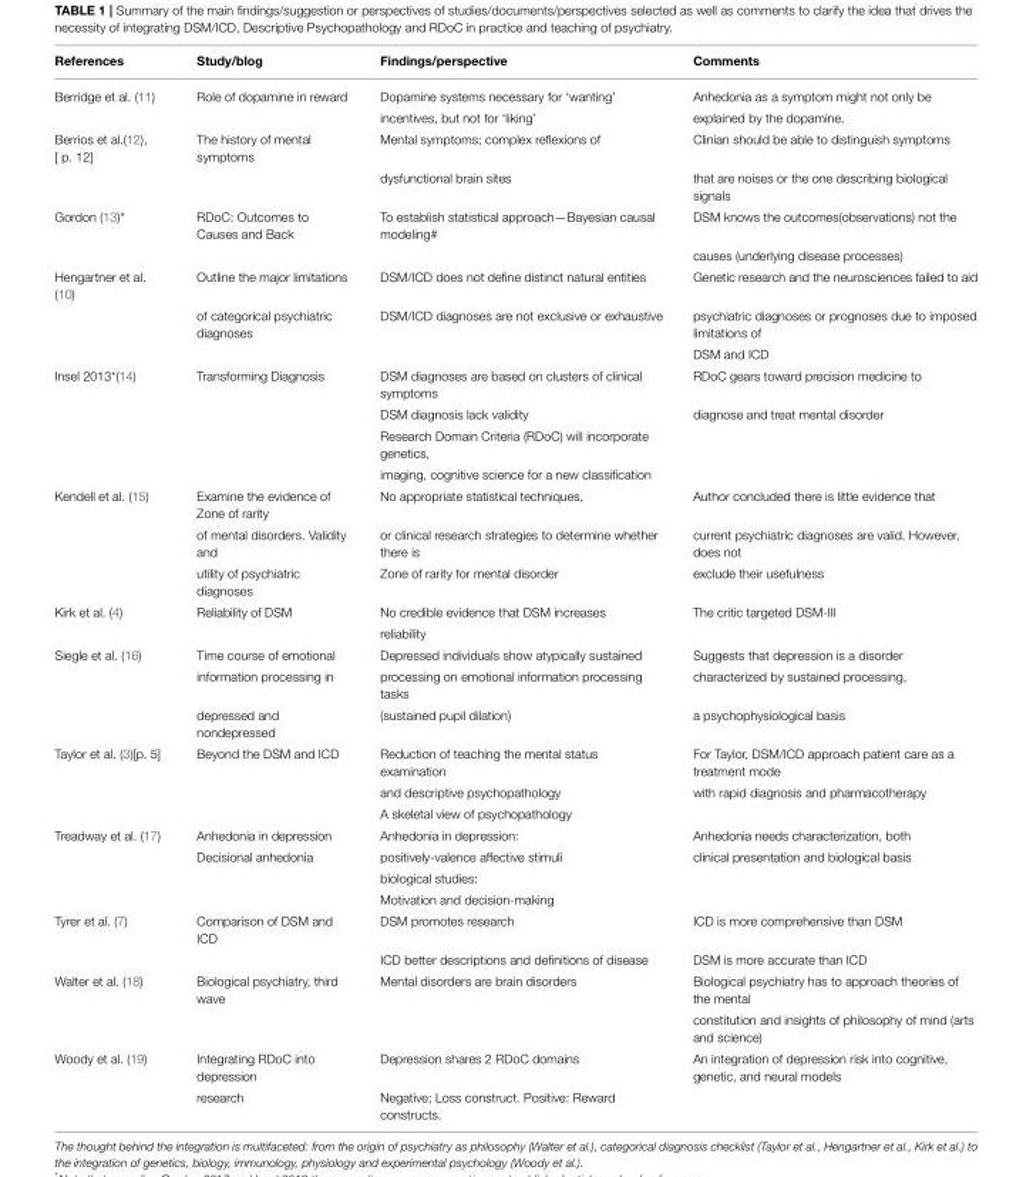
<table><thead><tr><td>References</td><td>Study/blog</td><td>Findings/perspective</td><td>Comments</td></tr></thead><tbody><tr><td rowspan="2">Berridge et al. (11)</td><td>Role of dopamine in reward</td><td>Dopamine systems necessary for ‘wanting’</td><td>Anhedonia as a symptom might not only be</td></tr><tr><td></td><td>incentives, but not for ‘liking’</td><td>explained by the dopamine.</td></tr><tr><td rowspan="2">Berrios et al.(12), [ p. 12]</td><td>The history of mental symptoms</td><td>Mental symptoms; complex reflexions of</td><td>Clinian should be able to distinguish symptoms</td></tr><tr><td></td><td>dysfunctional brain sites</td><td>that are noises or the one describing biological signals</td></tr><tr><td rowspan="2">Gordon (13)*</td><td>RDoC: Outcomes to Causes and Back</td><td>To establish statistical approach—Bayesian causal modeling#</td><td>DSM knows the outcomes(observations) not the</td></tr><tr><td></td><td></td><td>causes (underlying disease processes)</td></tr><tr><td rowspan="3">Hengartner et al. (10)</td><td>Outline the major limitations</td><td>DSM/ICD does not define distinct natural entities</td><td>Genetic research and the neurosciences failed to aid</td></tr><tr><td>of categorical psychiatric diagnoses</td><td>DSM/ICD diagnoses are not exclusive or exhaustive</td><td>psychiatric diagnoses or prognoses due to imposed limitations of</td></tr><tr><td></td><td></td><td>DSM and ICD</td></tr><tr><td rowspan="4">Insel 2013*(14)</td><td>Transforming Diagnosis</td><td>DSM diagnoses are based on clusters of clinical symptoms</td><td>RDoC gears toward precision medicine to</td></tr><tr><td></td><td>DSM diagnosis lack validity</td><td>diagnose and treat mental disorder</td></tr><tr><td></td><td>Research Domain Criteria (RDoC) will incorporate genetics,</td><td></td></tr><tr><td></td><td>imaging, cognitive science for a new classification</td><td></td></tr><tr><td rowspan="3">Kendell et al. (15)</td><td>Examine the evidence of Zone of rarity</td><td>No appropriate statistical techniques,</td><td>Author concluded there is little evidence that</td></tr><tr><td>of mental disorders. Validity and</td><td>or clinical research strategies to determine whether there is</td><td>current psychiatric diagnoses are valid. However, does not</td></tr><tr><td>utility of psychiatric diagnoses</td><td>Zone of rarity for mental disorder</td><td>exclude their usefulness</td></tr><tr><td rowspan="2">Kirk et al. (4)</td><td>Reliability of DSM</td><td>No credible evidence that DSM increases</td><td>The critic targeted DSM-III</td></tr><tr><td></td><td>reliability</td><td></td></tr><tr><td rowspan="3">Siegle et al. (16)</td><td>Time course of emotional</td><td>Depressed individuals show atypically sustained</td><td>Suggests that depression is a disorder</td></tr><tr><td>information processing in</td><td>processing on emotional information processing tasks</td><td>characterized by sustained processing,</td></tr><tr><td>depressed and nondepressed</td><td>(sustained pupil dilation)</td><td>a psychophysiological basis</td></tr><tr><td rowspan="3">Taylor et al. (3)[p. 5]</td><td>Beyond the DSM and ICD</td><td>Reduction of teaching the mental status examination</td><td>For Taylor, DSM/ICD approach patient care as a treatment mode</td></tr><tr><td></td><td>and descriptive psychopathology</td><td>with rapid diagnosis and pharmacotherapy</td></tr><tr><td></td><td>A skeletal view of psychopathology</td><td></td></tr><tr><td rowspan="4">Treadway et al. (17)</td><td>Anhedonia in depression</td><td>Anhedonia in depression:</td><td>Anhedonia needs characterization, both</td></tr><tr><td>Decisional anhedonia</td><td>positively-valence affective stimuli</td><td>clinical presentation and biological basis</td></tr><tr><td></td><td>biological studies:</td><td></td></tr><tr><td></td><td>Motivation and decision-making</td><td></td></tr><tr><td rowspan="2">Tyrer et al. (7)</td><td>Comparison of DSM and ICD</td><td>DSM promotes research</td><td>ICD is more comprehensive than DSM</td></tr><tr><td></td><td>ICD better descriptions and definitions of disease</td><td>DSM is more accurate than ICD</td></tr><tr><td rowspan="2">Walter et al. (18)</td><td>Biological psychiatry, third wave</td><td>Mental disorders are brain disorders</td><td>Biological psychiatry has to approach theories of the mental</td></tr><tr><td></td><td></td><td>constitution and insights of philosophy of mind (arts and science)</td></tr><tr><td rowspan="2">Woody et al. (19)</td><td>Integrating RDoC into depression</td><td>Depression shares 2 RDoC domains</td><td>An integration of depression risk into cognitive, genetic, and neural models</td></tr><tr><td>research</td><td>Negative; Loss construct. Positive: Reward constructs.</td><td></td></tr></tbody></table>